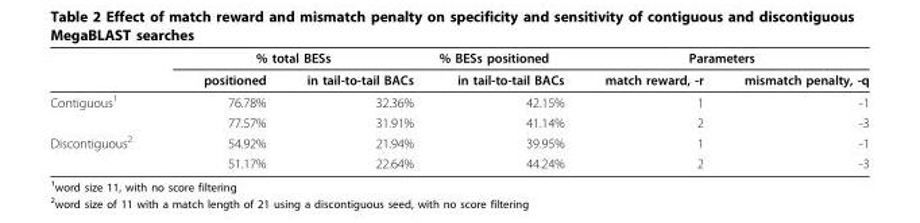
<table><thead><tr><td rowspan="2"></td><td colspan="2">% total BESs</td><td rowspan="2">% BESs positioned in tail-to-tail BACs</td><td colspan="2">Parameters</td></tr><tr><td>positioned</td><td>in tail-to-tail BACs</td><td>match reward, -r</td><td>mismatch penalty, -q</td></tr></thead><tbody><tr><td rowspan="2">Contiguous<sup>1</sup></td><td>76.78%</td><td>32.36%</td><td>42.15%</td><td>1</td><td>-1</td></tr><tr><td>77.57%</td><td>31.91%</td><td>41.14%</td><td>2</td><td>-3</td></tr><tr><td rowspan="2">Discontiguous<sup>2</sup></td><td>54.92%</td><td>21.94%</td><td>39.95%</td><td>1</td><td>-1</td></tr><tr><td>51.17%</td><td>22.64%</td><td>44.24%</td><td>2</td><td>-3</td></tr></tbody></table>